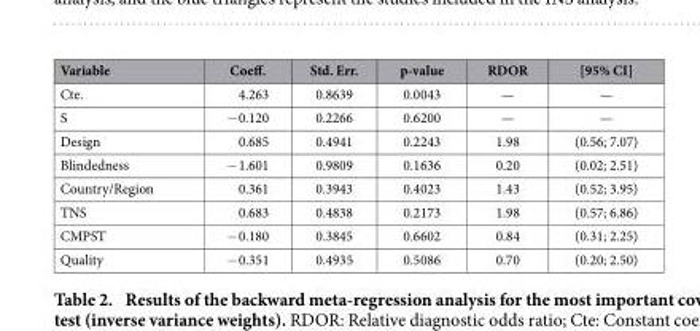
<table><thead><tr><td>Variable</td><td>Coeff.</td><td>Std. Err.</td><td>p-value</td><td>RDOR</td><td>[95% CI]</td></tr></thead><tbody><tr><td>Cte.</td><td>4.263</td><td>0.8639</td><td>0.0043</td><td>—</td><td>—</td></tr><tr><td>S</td><td>− 0.120</td><td>0.2266</td><td>0.6200</td><td>—</td><td>—</td></tr><tr><td>Design</td><td>0.685</td><td>0.4941</td><td>0.2243</td><td>1.98</td><td>(0.56; 7.07)</td></tr><tr><td>Blindedness</td><td>− 1.601</td><td>0.9809</td><td>0.1636</td><td>0.20</td><td>(0.02; 2.51)</td></tr><tr><td>Country/Region</td><td>0.361</td><td>0.3943</td><td>0.4023</td><td>1.43</td><td>(0.52; 3.95)</td></tr><tr><td>TNS</td><td>0.683</td><td>0.4838</td><td>0.2173</td><td>1.98</td><td>(0.57; 6.86)</td></tr><tr><td>CMPST</td><td>− 0.180</td><td>0.3845</td><td>0.6602</td><td>0.84</td><td>(0.31; 2.25)</td></tr><tr><td>Quality</td><td>− 0.351</td><td>0.4935</td><td>0.5086</td><td>0.70</td><td>(0.20; 2.50)</td></tr></tbody></table>